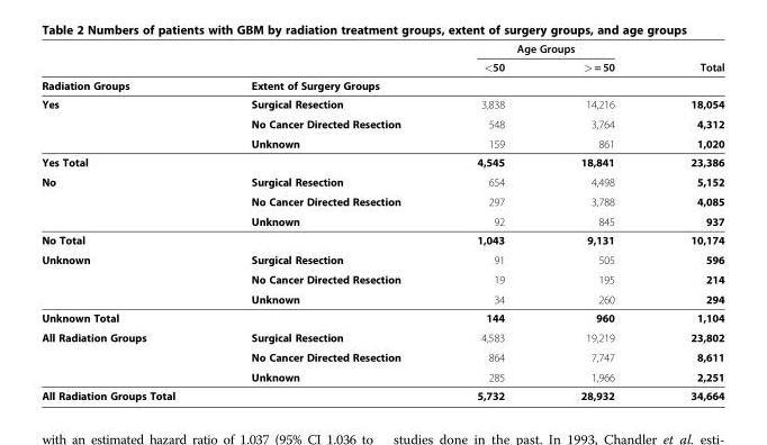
<table><thead><tr><td rowspan="2"></td><td rowspan="2"></td><td colspan="2">Age Groups</td><td rowspan="2">Total</td></tr><tr><td>&lt;50</td><td>&gt; = 50</td></tr></thead><tbody><tr><td>Radiation Groups</td><td>Extent of Surgery Groups</td><td></td><td></td><td></td></tr><tr><td rowspan="3">Yes</td><td>Surgical Resection</td><td>3,838</td><td>14,216</td><td>18,054</td></tr><tr><td>No Cancer Directed Resection</td><td>548</td><td>3,764</td><td>4,312</td></tr><tr><td>Unknown</td><td>159</td><td>861</td><td>1,020</td></tr><tr><td>Yes Total</td><td></td><td>4,545</td><td>18,841</td><td>23,386</td></tr><tr><td rowspan="3">No</td><td>Surgical Resection</td><td>654</td><td>4,498</td><td>5,152</td></tr><tr><td>No Cancer Directed Resection</td><td>297</td><td>3,788</td><td>4,085</td></tr><tr><td>Unknown</td><td>92</td><td>845</td><td>937</td></tr><tr><td>No Total</td><td></td><td>1,043</td><td>9,131</td><td>10,174</td></tr><tr><td rowspan="3">Unknown</td><td>Surgical Resection</td><td>91</td><td>505</td><td>596</td></tr><tr><td>No Cancer Directed Resection</td><td>19</td><td>195</td><td>214</td></tr><tr><td>Unknown</td><td>34</td><td>260</td><td>294</td></tr><tr><td>Unknown Total</td><td></td><td>144</td><td>960</td><td>1,104</td></tr><tr><td rowspan="3">All Radiation Groups</td><td>Surgical Resection</td><td>4,583</td><td>19,219</td><td>23,802</td></tr><tr><td>No Cancer Directed Resection</td><td>864</td><td>7,747</td><td>8,611</td></tr><tr><td>Unknown</td><td>285</td><td>1,966</td><td>2,251</td></tr><tr><td>All Radiation Groups Total</td><td></td><td>5,732</td><td>28,932</td><td>34,664</td></tr></tbody></table>